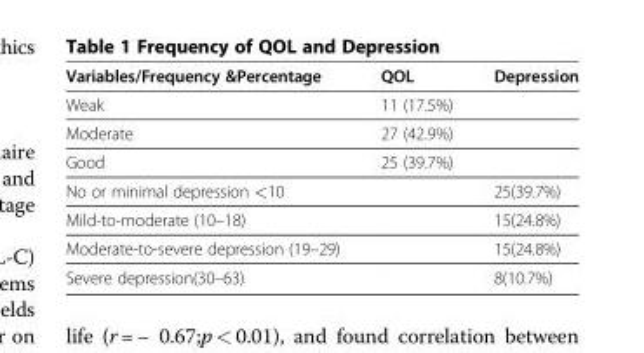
<table><thead><tr><td>Variables/Frequency &amp;Percentage</td><td>QOL</td><td>Depression</td></tr></thead><tbody><tr><td>Weak</td><td>11 (17.5%)</td><td></td></tr><tr><td>Moderate</td><td>27 (42.9%)</td><td></td></tr><tr><td>Good</td><td>25 (39.7%)</td><td></td></tr><tr><td>No or minimal depression &lt;10</td><td></td><td>25(39.7%)</td></tr><tr><td>Mild-to-moderate (10–18)</td><td></td><td>15(24.8%)</td></tr><tr><td>Moderate-to-severe depression (19–29)</td><td></td><td>15(24.8%)</td></tr><tr><td>Severe depression(30–63)</td><td></td><td>8(10.7%)</td></tr></tbody></table>